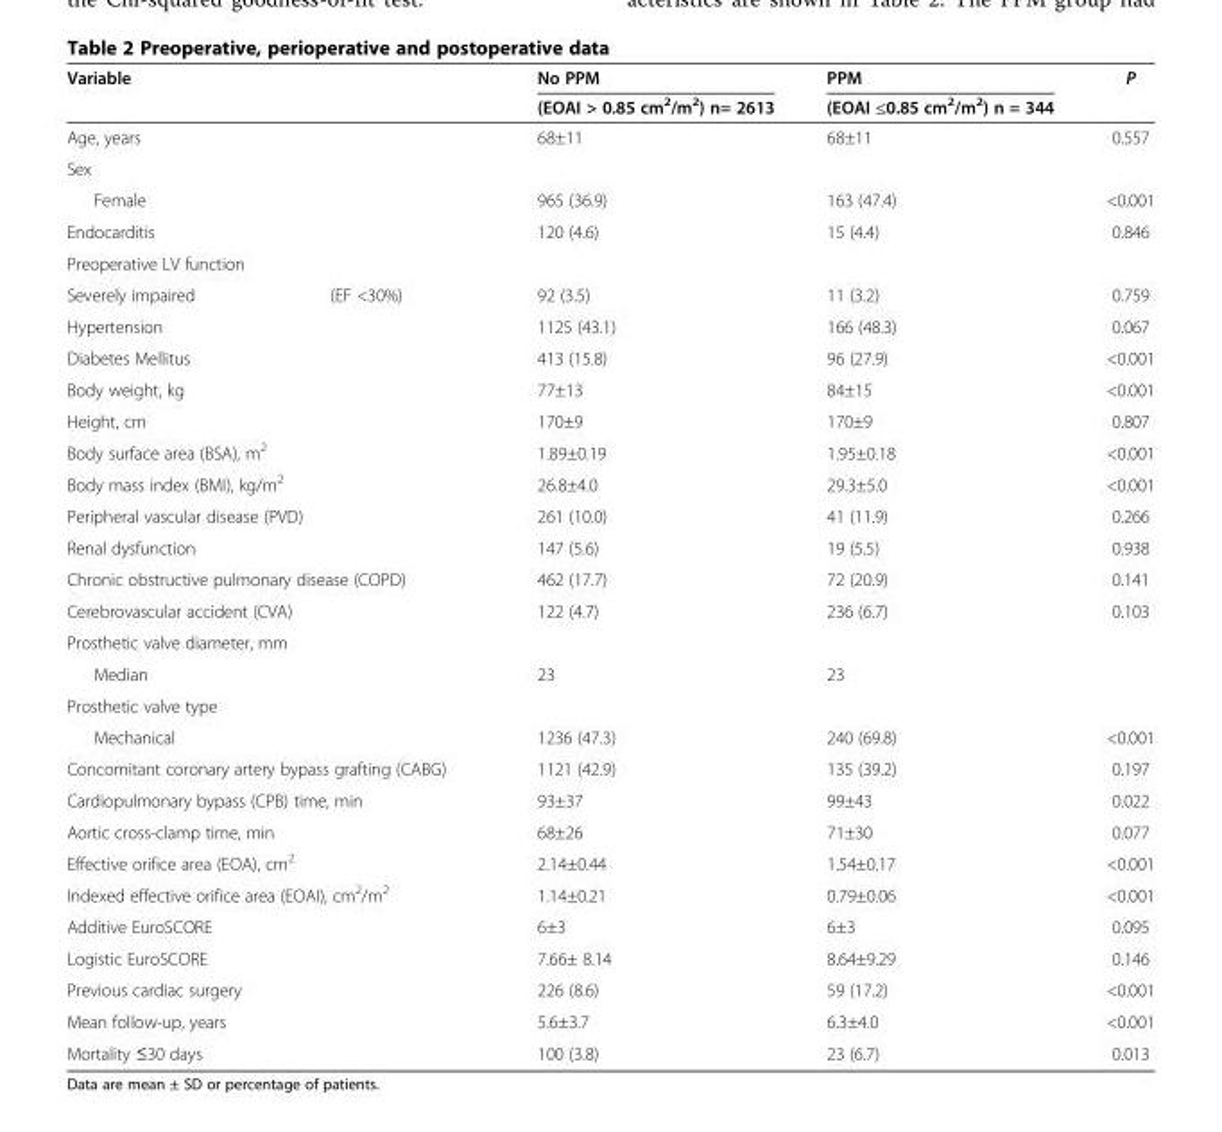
<table><thead><tr><td rowspan="2" colspan="2">Variable</td><td rowspan="2">No PPM (EOAI &gt; 0.85 cm<sup>2</sup>/m<sup>2</sup>) n= 2613</td><td rowspan="2">PPM (EOAI ≤0.85 cm<sup>2</sup>/m<sup>2</sup>) n = 344</td><td rowspan="2">P</td></tr><tr></tr></thead><tbody><tr><td colspan="2">Age, years</td><td>68±11</td><td>68±11</td><td>0.557</td></tr><tr><td colspan="5">Sex</td></tr><tr><td colspan="2">Female</td><td>965 (36.9)</td><td>163 (47.4)</td><td>&lt;0.001</td></tr><tr><td colspan="2">Endocarditis</td><td>120 (4.6)</td><td>15 (4.4)</td><td>0.846</td></tr><tr><td colspan="5">Preoperative LV function</td></tr><tr><td>Severely impaired</td><td>(EF &lt;30%)</td><td>92 (3.5)</td><td>11 (3.2)</td><td>0.759</td></tr><tr><td colspan="2">Hypertension</td><td>1125 (43.1)</td><td>166 (48.3)</td><td>0.067</td></tr><tr><td colspan="2">Diabetes Mellitus</td><td>413 (15.8)</td><td>96 (27.9)</td><td>&lt;0.001</td></tr><tr><td colspan="2">Body weight, kg</td><td>77±13</td><td>84±15</td><td>&lt;0.001</td></tr><tr><td colspan="2">Height, cm</td><td>170±9</td><td>170±9</td><td>0.807</td></tr><tr><td colspan="2">Body surface area (BSA), m<sup>2</sup></td><td>1.89±0.19</td><td>1.95±0.18</td><td>&lt;0.001</td></tr><tr><td colspan="2">Body mass index (BMI), kg/m<sup>2</sup></td><td>26.8±4.0</td><td>29.3±5.0</td><td>&lt;0.001</td></tr><tr><td colspan="2">Peripheral vascular disease (PVD)</td><td>261 (10.0)</td><td>41 (11.9)</td><td>0.266</td></tr><tr><td colspan="2">Renal dysfunction</td><td>147 (5.6)</td><td>19 (5.5)</td><td>0.938</td></tr><tr><td colspan="2">Chronic obstructive pulmonary disease (COPD)</td><td>462 (17.7)</td><td>72 (20.9)</td><td>0.141</td></tr><tr><td colspan="2">Cerebrovascular accident (CVA)</td><td>122 (4.7)</td><td>236 (6.7)</td><td>0.103</td></tr><tr><td colspan="5">Prosthetic valve diameter, mm</td></tr><tr><td colspan="2">Median</td><td>23</td><td>23</td><td></td></tr><tr><td colspan="5">Prosthetic valve type</td></tr><tr><td colspan="2">Mechanical</td><td>1236 (47.3)</td><td>240 (69.8)</td><td>&lt;0.001</td></tr><tr><td colspan="2">Concomitant coronary artery bypass grafting (CABG)</td><td>1121 (42.9)</td><td>135 (39.2)</td><td>0.197</td></tr><tr><td colspan="2">Cardiopulmonary bypass (CPB) time, min</td><td>93±37</td><td>99±43</td><td>0.022</td></tr><tr><td colspan="2">Aortic cross-clamp time, min</td><td>68±26</td><td>71±30</td><td>0.077</td></tr><tr><td colspan="2">Effective orifice area (EOA), cm<sup>2</sup></td><td>2.14±0.44</td><td>1.54±0.17</td><td>&lt;0.001</td></tr><tr><td colspan="2">Indexed effective orifice area (EOAI), cm<sup>2</sup>/m<sup>2</sup></td><td>1.14±0.21</td><td>0.79±0.06</td><td>&lt;0.001</td></tr><tr><td colspan="2">Additive EuroSCORE</td><td>6±3</td><td>6±3</td><td>0.095</td></tr><tr><td colspan="2">Logistic EuroSCORE</td><td>7.66± 8.14</td><td>8.64±9.29</td><td>0.146</td></tr><tr><td colspan="2">Previous cardiac surgery</td><td>226 (8.6)</td><td>59 (17.2)</td><td>&lt;0.001</td></tr><tr><td colspan="2">Mean follow-up, years</td><td>5.6±3.7</td><td>6.3±4.0</td><td>&lt;0.001</td></tr><tr><td colspan="2">Mortality ≤30 days</td><td>100 (3.8)</td><td>23 (6.7)</td><td>0.013</td></tr></tbody></table>